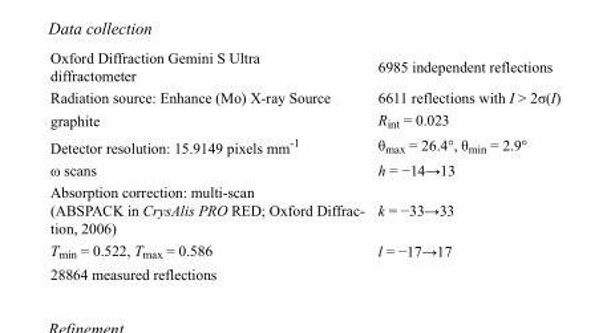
<table><tbody><tr><td>Oxford Diffraction Gemini S Ultra diffractometer</td><td>6985 independent reflections</td></tr><tr><td>Radiation source: Enhance (Mo) X-ray Source</td><td>6611 reflections with I &gt; 2σ(I)</td></tr><tr><td>graphite</td><td>R<sub>int</sub> = 0.023</td></tr><tr><td>Detector resolution: 15.9149 pixels mm<sup>-1</sup></td><td>θ<sub>max</sub> = 26.4°, θ<sub>min</sub> = 2.9°</td></tr><tr><td>ω scans</td><td>h = −14→13</td></tr><tr><td>Absorption correction: multi-scan (ABSPACK in CrysAlis PRO RED; Oxford Diffrac- tion, 2006)</td><td>k = −33→33</td></tr><tr><td>T<sub>min</sub> = 0.522, T<sub>max</sub> = 0.586</td><td>l = −17→17</td></tr><tr><td>28864 measured reflections</td><td></td></tr></tbody></table>